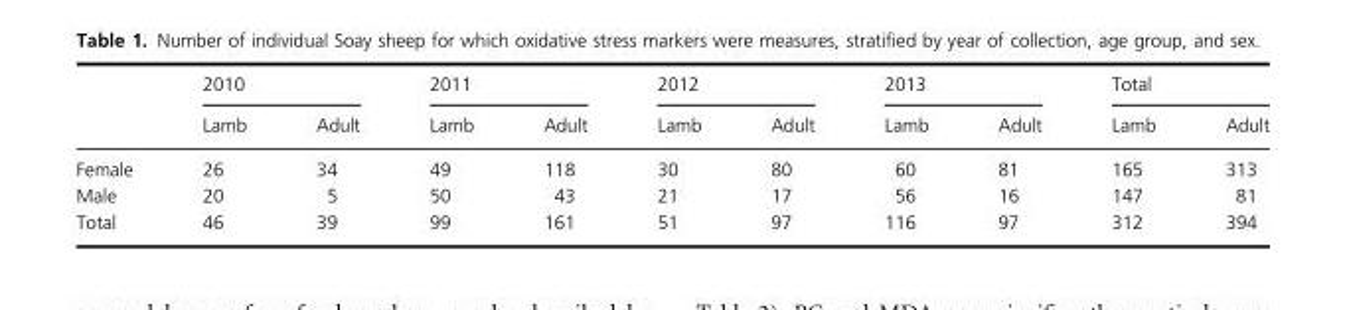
<table><thead><tr><td rowspan="2"></td><td colspan="2">2010</td><td colspan="2">2011</td><td colspan="2">2012</td><td colspan="2">2013</td><td colspan="2">Total</td></tr><tr><td>Lamb</td><td>Adult</td><td>Lamb</td><td>Adult</td><td>Lamb</td><td>Adult</td><td>Lamb</td><td>Adult</td><td>Lamb</td><td>Adult</td></tr></thead><tbody><tr><td>Female</td><td>26</td><td>34</td><td>49</td><td>118</td><td>30</td><td>80</td><td>60</td><td>81</td><td>165</td><td>313</td></tr><tr><td>Male</td><td>20</td><td>5</td><td>50</td><td>43</td><td>21</td><td>17</td><td>56</td><td>16</td><td>147</td><td>81</td></tr><tr><td>Total</td><td>46</td><td>39</td><td>99</td><td>161</td><td>51</td><td>97</td><td>116</td><td>97</td><td>312</td><td>394</td></tr></tbody></table>